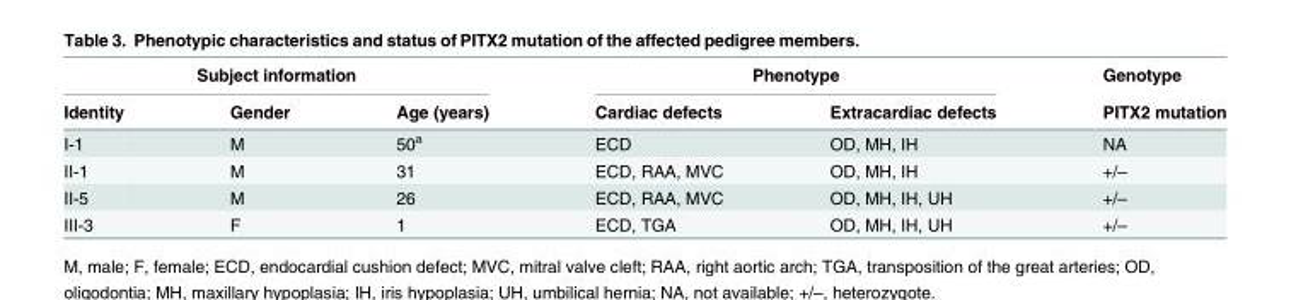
<table><thead><tr><td colspan="3">Subject information</td><td colspan="2">Phenotype</td><td rowspan="2">Genotype PITX2 mutation</td></tr><tr><td>Identity</td><td>Gender</td><td>Age (years)</td><td>Cardiac defects</td><td>Extracardiac defects</td></tr></thead><tbody><tr><td>I-1</td><td>M</td><td>50<sup>a</sup></td><td>ECD</td><td>OD, MH, IH</td><td>NA</td></tr><tr><td>II-1</td><td>M</td><td>31</td><td>ECD, RAA, MVC</td><td>OD, MH, IH</td><td>+/–</td></tr><tr><td>II-5</td><td>M</td><td>26</td><td>ECD, RAA, MVC</td><td>OD, MH, IH, UH</td><td>+/–</td></tr><tr><td>III-3</td><td>F</td><td>1</td><td>ECD, TGA</td><td>OD, MH, IH, UH</td><td>+/–</td></tr></tbody></table>